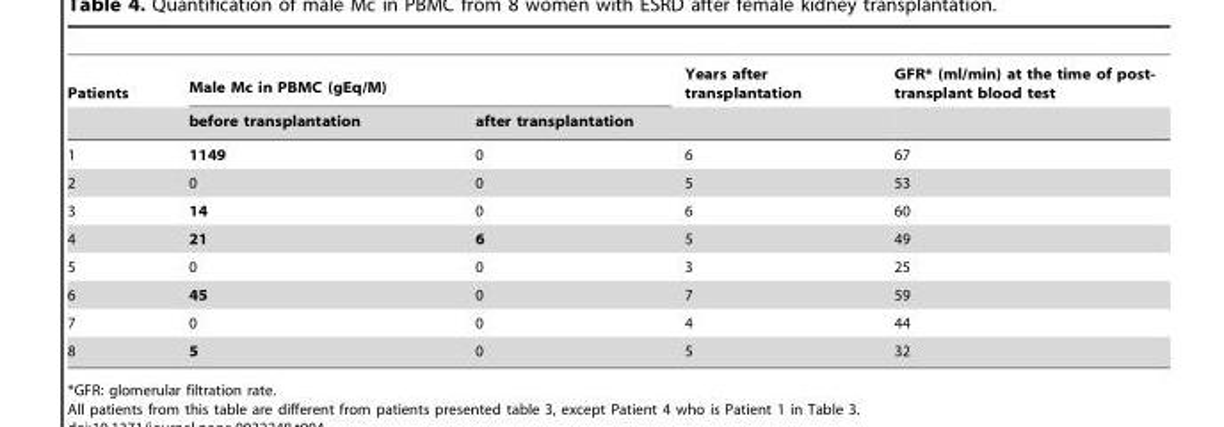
<table><thead><tr><td rowspan="2">Patients</td><td colspan="2">Male Mc in PBMC (gEq/M)</td><td rowspan="2">Years after transplantation</td><td rowspan="2">GFR* (ml/min) at the time of post- transplant blood test</td></tr><tr><td>before transplantation</td><td>after transplantation</td></tr></thead><tbody><tr><td>1</td><td>1149</td><td>0</td><td>6</td><td>67</td></tr><tr><td>2</td><td>0</td><td>0</td><td>5</td><td>53</td></tr><tr><td>3</td><td>14</td><td>0</td><td>6</td><td>60</td></tr><tr><td>4</td><td>21</td><td>6</td><td>5</td><td>49</td></tr><tr><td>5</td><td>0</td><td>0</td><td>3</td><td>25</td></tr><tr><td>6</td><td>45</td><td>0</td><td>7</td><td>59</td></tr><tr><td>7</td><td>0</td><td>0</td><td>4</td><td>44</td></tr><tr><td>8</td><td>5</td><td>0</td><td>5</td><td>32</td></tr></tbody></table>